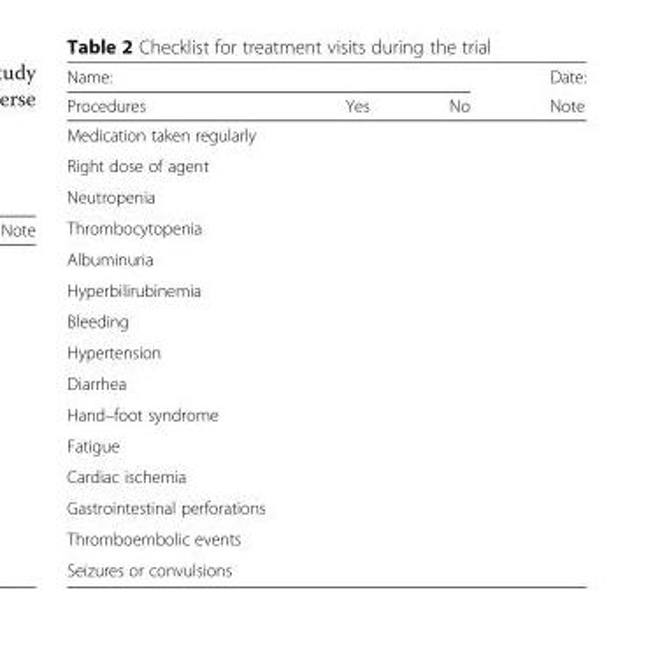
<table><thead><tr><td colspan="3">Name:</td><td rowspan="2">Date: Note</td></tr><tr><td>Procedures</td><td>Yes</td><td>No</td></tr></thead><tbody><tr><td colspan="4">Medication taken regularly</td></tr><tr><td colspan="4">Right dose of agent</td></tr><tr><td colspan="4">Neutropenia</td></tr><tr><td colspan="4">Thrombocytopenia</td></tr><tr><td colspan="4">Albuminuria</td></tr><tr><td colspan="4">Hyperbilirubinemia</td></tr><tr><td colspan="4">Bleeding</td></tr><tr><td colspan="4">Hypertension</td></tr><tr><td colspan="4">Diarrhea</td></tr><tr><td colspan="4">Hand–foot syndrome</td></tr><tr><td colspan="4">Fatigue</td></tr><tr><td colspan="4">Cardiac ischemia</td></tr><tr><td colspan="4">Gastrointestinal perforations</td></tr><tr><td colspan="4">Thromboembolic events</td></tr><tr><td>Seizures or convulsions</td><td></td><td></td><td></td></tr></tbody></table>